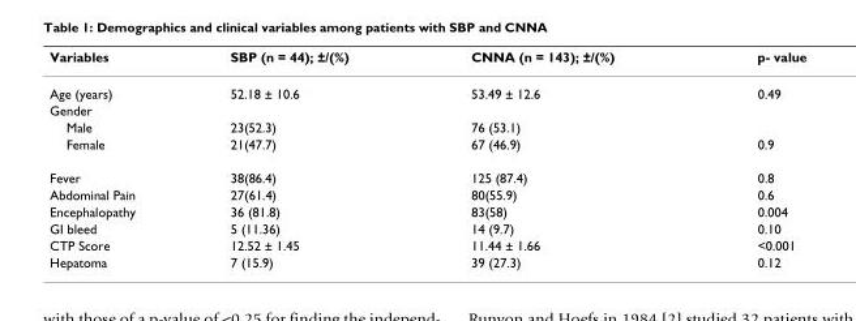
<table><thead><tr><td>Variables</td><td>SBP (n = 44); ±/(%)</td><td>CNNA (n = 143); ±/(%)</td><td>p- value</td></tr></thead><tbody><tr><td>Age (years)</td><td>52.18 ± 10.6</td><td>53.49 ± 12.6</td><td>0.49</td></tr><tr><td colspan="4">Gender</td></tr><tr><td>Male</td><td>23(52.3)</td><td>76 (53.1)</td><td></td></tr><tr><td>Female</td><td>21(47.7)</td><td>67 (46.9)</td><td>0.9</td></tr><tr><td>Fever</td><td>38(86.4)</td><td>125 (87.4)</td><td>0.8</td></tr><tr><td>Abdominal Pain</td><td>27(61.4)</td><td>80(55.9)</td><td>0.6</td></tr><tr><td>Encephalopathy</td><td>36 (81.8)</td><td>83(58)</td><td>0.004</td></tr><tr><td>GI bleed</td><td>5 (11.36)</td><td>14 (9.7)</td><td>0.10</td></tr><tr><td>CTP Score</td><td>12.52 ± 1.45</td><td>11.44 ± 1.66</td><td>&lt;0.001</td></tr><tr><td>Hepatoma</td><td>7 (15.9)</td><td>39 (27.3)</td><td>0.12</td></tr></tbody></table>